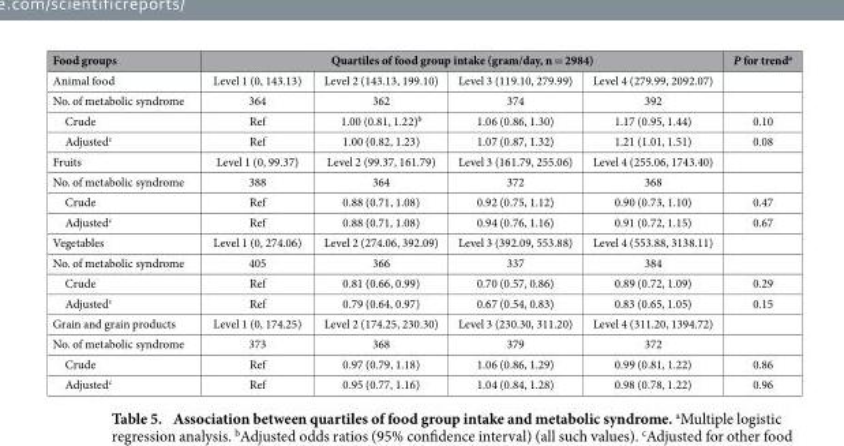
<table><thead><tr><td rowspan="2">Food groups Animal food</td><td colspan="4">Quartiles of food group intake (gram/day, n = 2984)</td><td rowspan="2">P for trend<sup>a</sup></td></tr><tr><td>Level 1 (0, 143.13)</td><td>Level 2 (143.13, 199.10)</td><td>Level 3 (119.10, 279.99)</td><td>Level 4 (279.99, 2092.07)</td></tr></thead><tbody><tr><td>No. of metabolic syndrome</td><td>364</td><td>362</td><td>374</td><td>392</td><td></td></tr><tr><td>Crude</td><td>Ref</td><td>1.00 (0.81, 1.22)<sup>b</sup></td><td>1.06 (0.86, 1.30)</td><td>1.17 (0.95, 1.44)</td><td>0.10</td></tr><tr><td>Adjusted<sup>c</sup></td><td>Ref</td><td>1.00 (0.82, 1.23)</td><td>1.07 (0.87, 1.32)</td><td>1.21 (1.01, 1.51)</td><td>0.08</td></tr><tr><td>Fruits</td><td>Level 1 (0, 99.37)</td><td>Level 2 (99.37, 161.79)</td><td>Level 3 (161.79, 255.06)</td><td>Level 4 (255.06, 1743.40)</td><td></td></tr><tr><td>No. of metabolic syndrome</td><td>388</td><td>364</td><td>372</td><td>368</td><td></td></tr><tr><td>Crude</td><td>Ref</td><td>0.88 (0.71, 1.08)</td><td>0.92 (0.75, 1.12)</td><td>0.90 (0.73, 1.10)</td><td>0.47</td></tr><tr><td>Adjusted<sup>c</sup></td><td>Ref</td><td>0.88 (0.71, 1.08)</td><td>0.94 (0.76, 1.16)</td><td>0.91 (0.72, 1.15)</td><td>0.67</td></tr><tr><td>Vegetables</td><td>Level 1 (0, 274.06)</td><td>Level 2 (274.06, 392.09)</td><td>Level 3 (392.09, 553.88)</td><td>Level 4 (553.88, 3138.11)</td><td></td></tr><tr><td>No. of metabolic syndrome</td><td>405</td><td>366</td><td>337</td><td>384</td><td></td></tr><tr><td>Crude</td><td>Ref</td><td>0.81 (0.66, 0.99)</td><td>0.70 (0.57, 0.86)</td><td>0.89 (0.72, 1.09)</td><td>0.29</td></tr><tr><td>Adjusted<sup>c</sup></td><td>Ref</td><td>0.79 (0.64, 0.97)</td><td>0.67 (0.54, 0.83)</td><td>0.83 (0.65, 1.05)</td><td>0.15</td></tr><tr><td>Grain and grain products</td><td>Level 1 (0, 174.25)</td><td>Level 2 (174.25, 230.30)</td><td>Level 3 (230.30, 311.20)</td><td>Level 4 (311.20, 1394.72)</td><td></td></tr><tr><td>No. of metabolic syndrome</td><td>373</td><td>368</td><td>379</td><td>372</td><td></td></tr><tr><td>Crude</td><td>Ref</td><td>0.97 (0.79, 1.18)</td><td>1.06 (0.86, 1.29)</td><td>0.99 (0.81, 1.22)</td><td>0.86</td></tr><tr><td>Adjusted<sup>c</sup></td><td>Ref</td><td>0.95 (0.77, 1.16)</td><td>1.04 (0.84, 1.28)</td><td>0.98 (0.78, 1.22)</td><td>0.96</td></tr></tbody></table>